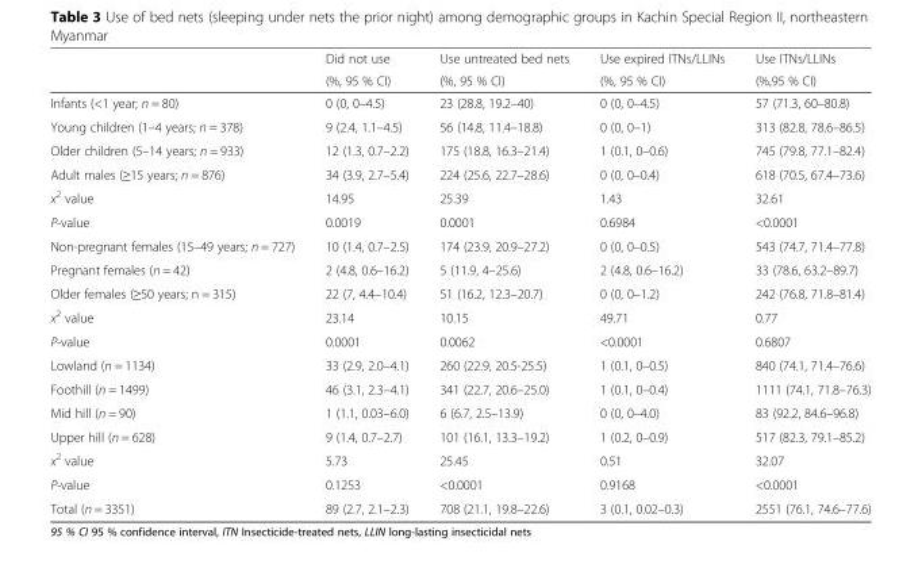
<table><thead><tr><td rowspan="2"></td><td rowspan="2">Did not use (%, 95 % CI)</td><td rowspan="2">Use untreated bed nets (%, 95 % CI)</td><td rowspan="2">Use expired ITNs/LLINs (%, 95 % CI)</td><td rowspan="2">Use ITNs/LLINs (%,95 % CI)</td></tr><tr></tr></thead><tbody><tr><td>Infants (&lt;1 year; n = 80)</td><td>0 (0, 0–4.5)</td><td>23 (28.8, 19.2–40)</td><td>0 (0, 0–4.5)</td><td>57 (71.3, 60–80.8)</td></tr><tr><td>Young children (1–4 years; n = 378)</td><td>9 (2.4, 1.1–4.5)</td><td>56 (14.8, 11.4–18.8)</td><td>0 (0, 0–1)</td><td>313 (82.8, 78.6–86.5)</td></tr><tr><td>Older children (5–14 years; n = 933)</td><td>12 (1.3, 0.7–2.2)</td><td>175 (18.8, 16.3–21.4)</td><td>1 (0.1, 0–0.6)</td><td>745 (79.8, 77.1–82.4)</td></tr><tr><td>Adult males (≥15 years; n = 876)</td><td>34 (3.9, 2.7–5.4)</td><td>224 (25.6, 22.7–28.6)</td><td>0 (0, 0–0.4)</td><td>618 (70.5, 67.4–73.6)</td></tr><tr><td>x<sup>2</sup> value</td><td>14.95</td><td>25.39</td><td>1.43</td><td>32.61</td></tr><tr><td>P-value</td><td>0.0019</td><td>0.0001</td><td>0.6984</td><td>&lt;0.0001</td></tr><tr><td>Non-pregnant females (15–49 years; n = 727)</td><td>10 (1.4, 0.7–2.5)</td><td>174 (23.9, 20.9–27.2)</td><td>0 (0, 0–0.5)</td><td>543 (74.7, 71.4–77.8)</td></tr><tr><td>Pregnant females (n = 42)</td><td>2 (4.8, 0.6–16.2)</td><td>5 (11.9, 4–25.6)</td><td>2 (4.8, 0.6–16.2)</td><td>33 (78.6, 63.2–89.7)</td></tr><tr><td>Older females (≥50 years; n = 315)</td><td>22 (7, 4.4–10.4)</td><td>51 (16.2, 12.3–20.7)</td><td>0 (0, 0–1.2)</td><td>242 (76.8, 71.8–81.4)</td></tr><tr><td>x<sup>2</sup> value</td><td>23.14</td><td>10.15</td><td>49.71</td><td>0.77</td></tr><tr><td>P-value</td><td>0.0001</td><td>0.0062</td><td>&lt;0.0001</td><td>0.6807</td></tr><tr><td>Lowland (n = 1134)</td><td>33 (2.9, 2.0–4.1)</td><td>260 (22.9, 20.5-25.5)</td><td>1 (0.1, 0–0.5)</td><td>840 (74.1, 71.4–76.6)</td></tr><tr><td>Foothill (n = 1499)</td><td>46 (3.1, 2.3–4.1)</td><td>341 (22.7, 20.6–25.0)</td><td>1 (0.1, 0–0.4)</td><td>1111 (74.1, 71.8–76.3)</td></tr><tr><td>Mid hill (n = 90)</td><td>1 (1.1, 0.03–6.0)</td><td>6 (6.7, 2.5–13.9)</td><td>0 (0, 0–4.0)</td><td>83 (92.2, 84.6–96.8)</td></tr><tr><td>Upper hill (n = 628)</td><td>9 (1.4, 0.7–2.7)</td><td>101 (16.1, 13.3–19.2)</td><td>1 (0.2, 0–0.9)</td><td>517 (82.3, 79.1–85.2)</td></tr><tr><td>x<sup>2</sup> value</td><td>5.73</td><td>25.45</td><td>0.51</td><td>32.07</td></tr><tr><td>P-value</td><td>0.1253</td><td>&lt;0.0001</td><td>0.9168</td><td>&lt;0.0001</td></tr><tr><td>Total (n = 3351)</td><td>89 (2.7, 2.1–2.3)</td><td>708 (21.1, 19.8–22.6)</td><td>3 (0.1, 0.02–0.3)</td><td>2551 (76.1, 74.6–77.6)</td></tr></tbody></table>